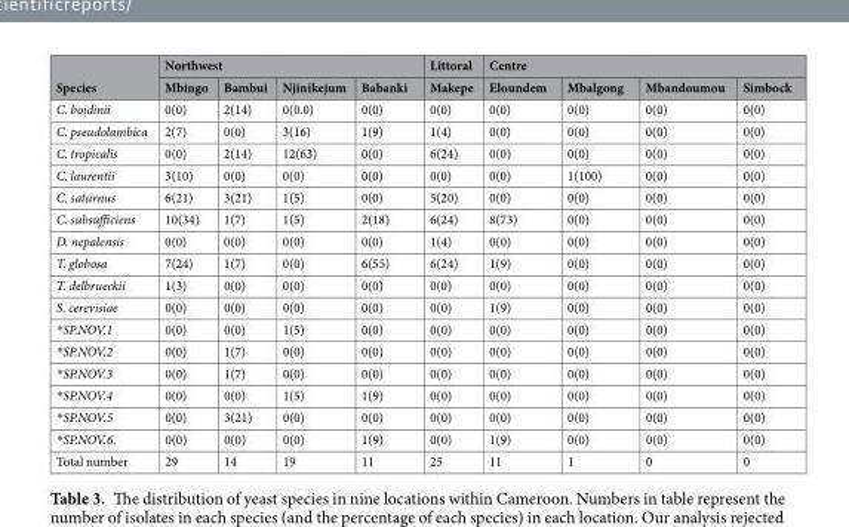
<table><thead><tr><td rowspan="2">Species</td><td colspan="4">Northwest</td><td rowspan="2">Littoral Makepe</td><td colspan="4">Centre</td></tr><tr><td>Mbingo</td><td>Bambui</td><td>Njinikejum</td><td>Babanki</td><td>Eloundem</td><td>Mbalgong</td><td>Mbandoumou</td><td>Simbock</td></tr></thead><tbody><tr><td>C. boidinii</td><td>0(0)</td><td>2(14)</td><td>0(0.0)</td><td>0(0)</td><td>0(0)</td><td>0(0)</td><td>0(0)</td><td>0(0)</td><td>0(0)</td></tr><tr><td>C. pseudolambica</td><td>2(7)</td><td>0(0)</td><td>3(16)</td><td>1(9)</td><td>1(4)</td><td>0(0)</td><td>0(0)</td><td>0(0)</td><td>0(0)</td></tr><tr><td>C. tropicalis</td><td>0(0)</td><td>2(14)</td><td>12(63)</td><td>0(0)</td><td>6(24)</td><td>0(0)</td><td>0(0)</td><td>0(0)</td><td>0(0)</td></tr><tr><td>C. laurentii</td><td>3(10)</td><td>0(0)</td><td>0(0)</td><td>0(0)</td><td>0(0)</td><td>0(0)</td><td>1(100)</td><td>0(0)</td><td>0(0)</td></tr><tr><td>C. saturnus</td><td>6(21)</td><td>3(21)</td><td>1(5)</td><td>0(0)</td><td>5(20)</td><td>0(0)</td><td>0(0)</td><td>0(0)</td><td>0(0)</td></tr><tr><td>C. subsufficiens</td><td>10(34)</td><td>1(7)</td><td>1(5)</td><td>2(18)</td><td>6(24)</td><td>8(73)</td><td>0(0)</td><td>0(0)</td><td>0(0)</td></tr><tr><td>D. nepalensis</td><td>0(0)</td><td>0(0)</td><td>0(0)</td><td>0(0)</td><td>1(4)</td><td>0(0)</td><td>0(0)</td><td>0(0)</td><td>0(0)</td></tr><tr><td>T. globosa</td><td>7(24)</td><td>1(7)</td><td>0(0)</td><td>6(55)</td><td>6(24)</td><td>1(9)</td><td>0(0)</td><td>0(0)</td><td>0(0)</td></tr><tr><td>T. delbrueckii</td><td>1(3)</td><td>0(0)</td><td>0(0)</td><td>0(0)</td><td>0(0)</td><td>0(0)</td><td>0(0)</td><td>0(0)</td><td>0(0)</td></tr><tr><td>S. cerevisiae</td><td>0(0)</td><td>0(0)</td><td>0(0)</td><td>0(0)</td><td>0(0)</td><td>1(9)</td><td>0(0)</td><td>0(0)</td><td>0(0)</td></tr><tr><td>*SP.NOV.1</td><td>0(0)</td><td>0(0)</td><td>1(5)</td><td>0(0)</td><td>0(0)</td><td>0(0)</td><td>0(0)</td><td>0(0)</td><td>0(0)</td></tr><tr><td>*SP.NOV.2</td><td>0(0)</td><td>1(7)</td><td>0(0)</td><td>0(0)</td><td>0(0)</td><td>0(0)</td><td>0(0)</td><td>0(0)</td><td>0(0)</td></tr><tr><td>*SP.NOV.3</td><td>0(0)</td><td>1(7)</td><td>0(0)</td><td>0(0)</td><td>0(0)</td><td>0(0)</td><td>0(0)</td><td>0(0)</td><td>0(0)</td></tr><tr><td>*SP.NOV.4</td><td>0(0)</td><td>0(0)</td><td>1(5)</td><td>1(9)</td><td>0(0)</td><td>0(0)</td><td>0(0)</td><td>0(0)</td><td>0(0)</td></tr><tr><td>*SP.NOV.5</td><td>0(0)</td><td>3(21)</td><td>0(0)</td><td>0(0)</td><td>0(0)</td><td>0(0)</td><td>0(0)</td><td>0(0)</td><td>0(0)</td></tr><tr><td>*SP.NOV.6.</td><td>0(0)</td><td>0(0)</td><td>0(0)</td><td>1(9)</td><td>0(0)</td><td>1(9)</td><td>0(0)</td><td>0(0)</td><td>0(0)</td></tr><tr><td>Total number</td><td>29</td><td>14</td><td>19</td><td>11</td><td>25</td><td>11</td><td>1</td><td>0</td><td>0</td></tr></tbody></table>